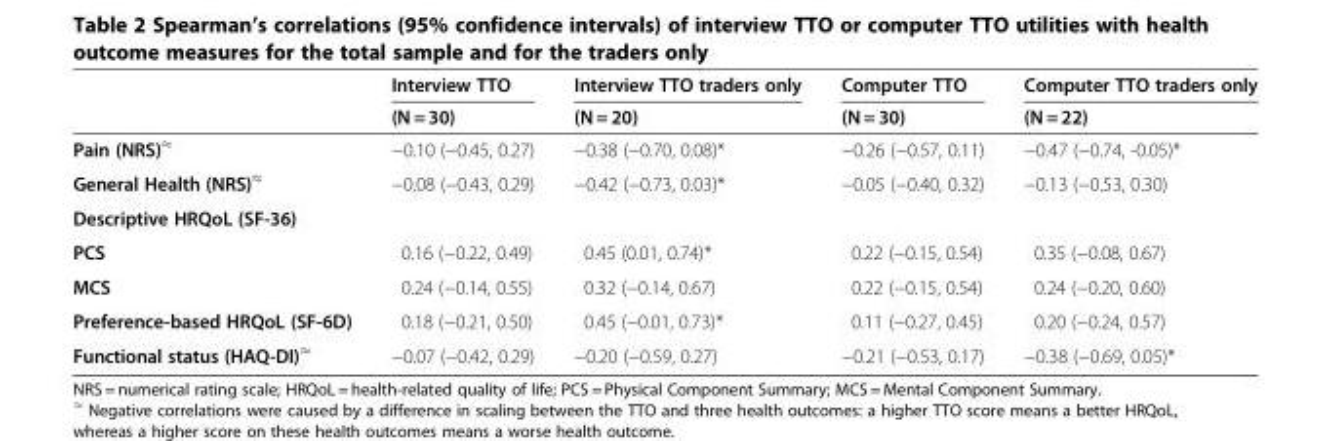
<table><thead><tr><td rowspan="2"></td><td rowspan="2">Interview TTO (N = 30)</td><td rowspan="2">Interview TTO traders only (N = 20)</td><td rowspan="2">Computer TTO (N = 30)</td><td rowspan="2">Computer TTO traders only (N = 22)</td></tr><tr></tr></thead><tbody><tr><td>Pain (NRS)<sup>≈</sup></td><td>−0.10 (−0.45, 0.27)</td><td>−0.38 (−0.70, 0.08)*</td><td>−0.26 (−0.57, 0.11)</td><td>−0.47 (−0.74, -0.05)*</td></tr><tr><td>General Health (NRS)<sup>≈</sup></td><td>−0.08 (−0.43, 0.29)</td><td>−0.42 (−0.73, 0.03)*</td><td>−0.05 (−0.40, 0.32)</td><td>−0.13 (−0.53, 0.30)</td></tr><tr><td colspan="5">Descriptive HRQoL (SF-36)</td></tr><tr><td>PCS</td><td>0.16 (−0.22, 0.49)</td><td>0.45 (0.01, 0.74)*</td><td>0.22 (−0.15, 0.54)</td><td>0.35 (−0.08, 0.67)</td></tr><tr><td>MCS</td><td>0.24 (−0.14, 0.55)</td><td>0.32 (−0.14, 0.67)</td><td>0.22 (−0.15, 0.54)</td><td>0.24 (−0.20, 0.60)</td></tr><tr><td>Preference-based HRQoL (SF-6D)</td><td>0.18 (−0.21, 0.50)</td><td>0.45 (−0.01, 0.73)*</td><td>0.11 (−0.27, 0.45)</td><td>0.20 (−0.24, 0.57)</td></tr><tr><td>Functional status (HAQ-DI)<sup>≈</sup></td><td>−0.07 (−0.42, 0.29)</td><td>−0.20 (−0.59, 0.27)</td><td>−0.21 (−0.53, 0.17)</td><td>−0.38 (−0.69, 0.05)*</td></tr></tbody></table>